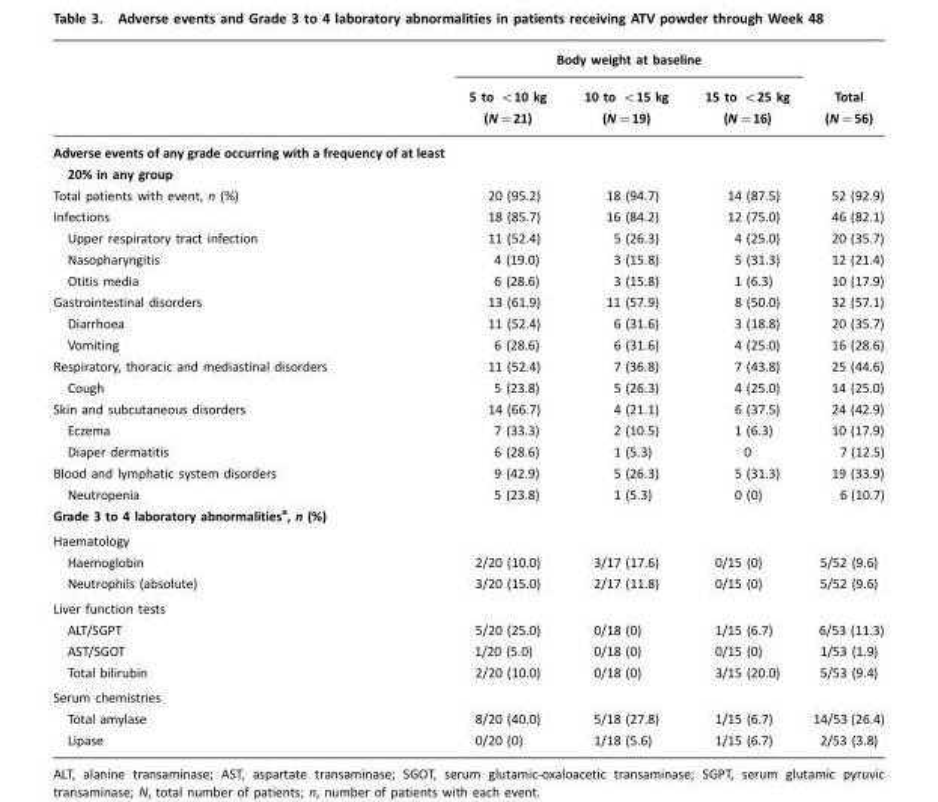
<table><thead><tr><td rowspan="2"></td><td colspan="3">Body weight at baseline</td><td rowspan="2">Total (N=56)</td></tr><tr><td>5 to &lt;10 kg (N=21)</td><td>10 to &lt;15 kg (N=19)</td><td>15 to &lt;25 kg (N=16)</td></tr></thead><tbody><tr><td colspan="5">Adverse events of any grade occurring with a frequency of at least 20% in any group</td></tr><tr><td>Total patients with event, n (%)</td><td>20 (95.2)</td><td>18 (94.7)</td><td>14 (87.5)</td><td>52 (92.9)</td></tr><tr><td>Infections</td><td>18 (85.7)</td><td>16 (84.2)</td><td>12 (75.0)</td><td>46 (82.1)</td></tr><tr><td>Upper respiratory tract infection</td><td>11 (52.4)</td><td>5 (26.3)</td><td>4 (25.0)</td><td>20 (35.7)</td></tr><tr><td>Nasopharyngitis</td><td>4 (19.0)</td><td>3 (15.8)</td><td>5 (31.3)</td><td>12 (21.4)</td></tr><tr><td>Otitis media</td><td>6 (28.6)</td><td>3 (15.8)</td><td>1 (6.3)</td><td>10 (17.9)</td></tr><tr><td>Gastrointestinal disorders</td><td>13 (61.9)</td><td>11 (57.9)</td><td>8 (50.0)</td><td>32 (57.1)</td></tr><tr><td>Diarrhoea</td><td>11 (52.4)</td><td>6 (31.6)</td><td>3 (18.8)</td><td>20 (35.7)</td></tr><tr><td>Vomiting</td><td>6 (28.6)</td><td>6 (31.6)</td><td>4 (25.0)</td><td>16 (28.6)</td></tr><tr><td>Respiratory, thoracic and mediastinal disorders</td><td>11 (52.4)</td><td>7 (36.8)</td><td>7 (43.8)</td><td>25 (44.6)</td></tr><tr><td>Cough</td><td>5 (23.8)</td><td>5 (26.3)</td><td>4 (25.0)</td><td>14 (25.0)</td></tr><tr><td>Skin and subcutaneous disorders</td><td>14 (66.7)</td><td>4 (21.1)</td><td>6 (37.5)</td><td>24 (42.9)</td></tr><tr><td>Eczema</td><td>7 (33.3)</td><td>2 (10.5)</td><td>1 (6.3)</td><td>10 (17.9)</td></tr><tr><td>Diaper dermatitis</td><td>6 (28.6)</td><td>1 (5.3)</td><td>0</td><td>7 (12.5)</td></tr><tr><td>Blood and lymphatic system disorders</td><td>9 (42.9)</td><td>5 (26.3)</td><td>5 (31.3)</td><td>19 (33.9)</td></tr><tr><td>Neutropenia</td><td>5 (23.8)</td><td>1 (5.3)</td><td>0 (0)</td><td>6 (10.7)</td></tr><tr><td colspan="5">Grade 3 to 4 laboratory abnormalities<sup>a</sup>, n (%)</td></tr><tr><td colspan="5">Haematology</td></tr><tr><td>Haemoglobin</td><td>2/20 (10.0)</td><td>3/17 (17.6)</td><td>0/15 (0)</td><td>5/52 (9.6)</td></tr><tr><td>Neutrophils (absolute)</td><td>3/20 (15.0)</td><td>2/17 (11.8)</td><td>0/15 (0)</td><td>5/52 (9.6)</td></tr><tr><td colspan="5">Liver function tests</td></tr><tr><td>ALT/SGPT</td><td>5/20 (25.0)</td><td>0/18 (0)</td><td>1/15 (6.7)</td><td>6/53 (11.3)</td></tr><tr><td>AST/SGOT</td><td>1/20 (5.0)</td><td>0/18 (0)</td><td>0/15 (0)</td><td>1/53 (1.9)</td></tr><tr><td>Total bilirubin</td><td>2/20 (10.0)</td><td>0/18 (0)</td><td>3/15 (20.0)</td><td>5/53 (9.4)</td></tr><tr><td colspan="5">Serum chemistries</td></tr><tr><td>Total amylase</td><td>8/20 (40.0)</td><td>5/18 (27.8)</td><td>1/15 (6.7)</td><td>14/53 (26.4)</td></tr><tr><td>Lipase</td><td>0/20 (0)</td><td>1/18 (5.6)</td><td>1/15 (6.7)</td><td>2/53 (3.8)</td></tr></tbody></table>